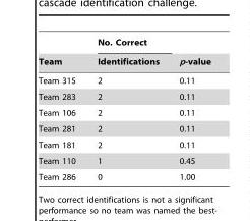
<table><thead><tr><td rowspan="2">Team</td><td rowspan="2">No. Correct Identifications</td><td rowspan="2">p-value</td></tr><tr></tr></thead><tbody><tr><td>Team 315</td><td>2</td><td>0.11</td></tr><tr><td>Team 283</td><td>2</td><td>0.11</td></tr><tr><td>Team 106</td><td>2</td><td>0.11</td></tr><tr><td>Team 281</td><td>2</td><td>0.11</td></tr><tr><td>Team 181</td><td>2</td><td>0.11</td></tr><tr><td>Team 110</td><td>1</td><td>0.45</td></tr><tr><td>Team 286</td><td>0</td><td>1.00</td></tr></tbody></table>